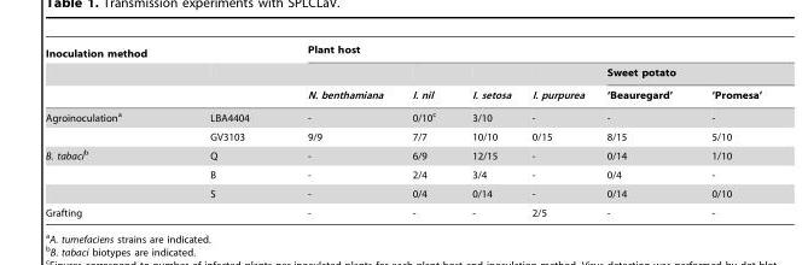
<table><thead><tr><td colspan="2">Inoculation method</td><td colspan="6">Plant host</td></tr><tr><td rowspan="2"></td><td rowspan="2"></td><td rowspan="2">N. benthamiana</td><td rowspan="2">I. nil</td><td rowspan="2">I. setosa</td><td rowspan="2">I. purpurea</td><td colspan="2">Sweet potato</td></tr><tr><td>‘Beauregard’</td><td>‘Promesa’</td></tr></thead><tbody><tr><td rowspan="2">Agroinoculation<sup>a</sup></td><td>LBA4404</td><td>-</td><td>0/10<sup>c</sup></td><td>3/10</td><td>-</td><td>-</td><td>-</td></tr><tr><td>GV3103</td><td>9/9</td><td>7/7</td><td>10/10</td><td>0/15</td><td>8/15</td><td>5/10</td></tr><tr><td rowspan="3">B. tabacib</td><td>Q</td><td>-</td><td>6/9</td><td>12/15</td><td>-</td><td>0/14</td><td>1/10</td></tr><tr><td>B</td><td>-</td><td>2/4</td><td>3/4</td><td>-</td><td>0/4</td><td>-</td></tr><tr><td>S</td><td>-</td><td>0/4</td><td>0/14</td><td>-</td><td>0/14</td><td>0/10</td></tr><tr><td>Grafting</td><td></td><td>-</td><td>-</td><td>-</td><td>2/5</td><td>-</td><td>-</td></tr></tbody></table>